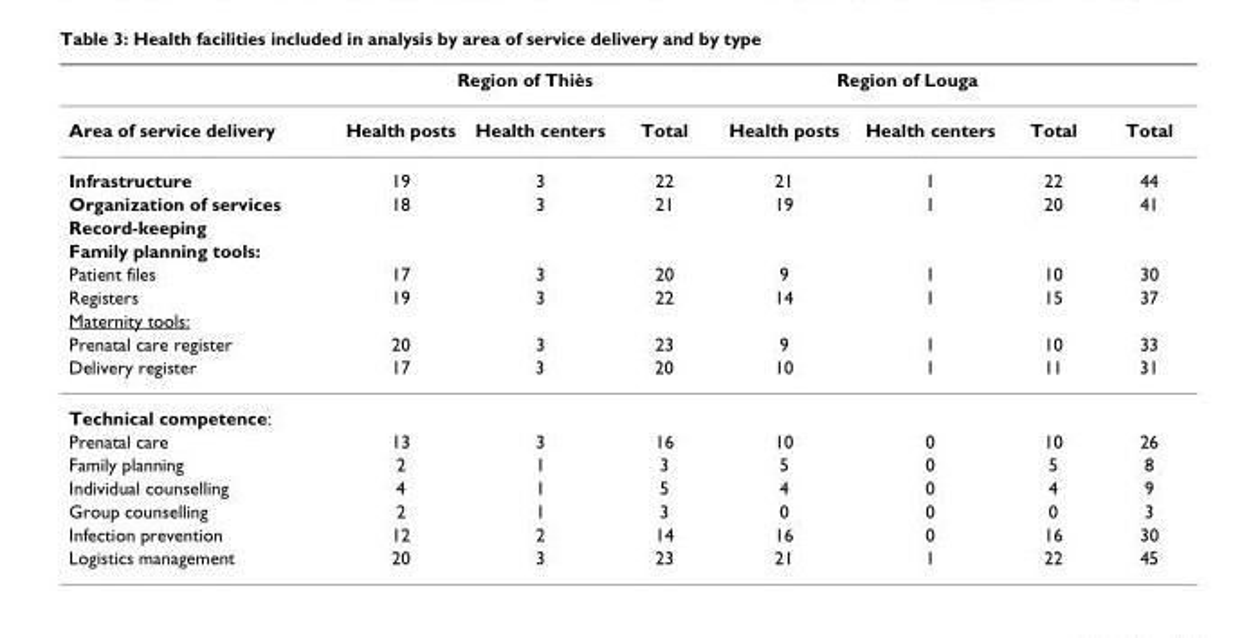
<table><thead><tr><td rowspan="2">Area of service delivery</td><td colspan="3">Region of Thiès</td><td colspan="3">Region of Louga</td><td rowspan="2">Total</td></tr><tr><td>Health posts</td><td>Health centers</td><td>Total</td><td>Health posts</td><td>Health centers</td><td>Total</td></tr></thead><tbody><tr><td>Infrastructure</td><td>19</td><td>3</td><td>22</td><td>21</td><td>1</td><td>22</td><td>44</td></tr><tr><td>Organization of services</td><td>18</td><td>3</td><td>21</td><td>19</td><td>1</td><td>20</td><td>41</td></tr><tr><td colspan="8">Record-keeping</td></tr><tr><td colspan="8">Family planning tools:</td></tr><tr><td>Patient files</td><td>17</td><td>3</td><td>20</td><td>9</td><td>1</td><td>10</td><td>30</td></tr><tr><td>Registers</td><td>19</td><td>3</td><td>22</td><td>14</td><td>1</td><td>15</td><td>37</td></tr><tr><td colspan="8">Maternity tools:</td></tr><tr><td>Prenatal care register</td><td>20</td><td>3</td><td>23</td><td>9</td><td>1</td><td>10</td><td>33</td></tr><tr><td>Delivery register</td><td>17</td><td>3</td><td>20</td><td>10</td><td>1</td><td>11</td><td>31</td></tr><tr><td colspan="8">Technical competence:</td></tr><tr><td>Prenatal care</td><td>13</td><td>3</td><td>16</td><td>10</td><td>0</td><td>10</td><td>26</td></tr><tr><td>Family planning</td><td>2</td><td>1</td><td>3</td><td>5</td><td>0</td><td>5</td><td>8</td></tr><tr><td>Individual counselling</td><td>4</td><td>1</td><td>5</td><td>4</td><td>0</td><td>4</td><td>9</td></tr><tr><td>Group counselling</td><td>2</td><td>1</td><td>3</td><td>0</td><td>0</td><td>0</td><td>3</td></tr><tr><td>Infection prevention</td><td>12</td><td>2</td><td>14</td><td>16</td><td>0</td><td>16</td><td>30</td></tr><tr><td>Logistics management</td><td>20</td><td>3</td><td>23</td><td>21</td><td>1</td><td>22</td><td>45</td></tr></tbody></table>